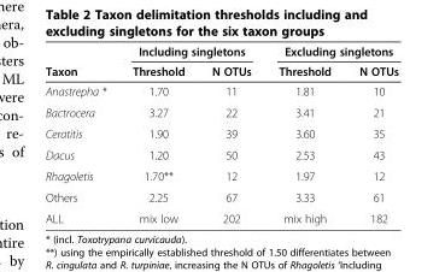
<table><thead><tr><td rowspan="2">Taxon</td><td colspan="2">Including singletons</td><td colspan="2">Excluding singletons</td></tr><tr><td>Threshold</td><td>N OTUs</td><td>Threshold</td><td>N OTUs</td></tr></thead><tbody><tr><td>Anastrepha *</td><td>1.70</td><td>11</td><td>1.81</td><td>10</td></tr><tr><td>Bactrocera</td><td>3.27</td><td>22</td><td>3.41</td><td>21</td></tr><tr><td>Ceratitis</td><td>1.90</td><td>39</td><td>3.60</td><td>35</td></tr><tr><td>Dacus</td><td>1.20</td><td>50</td><td>2.53</td><td>43</td></tr><tr><td>Rhagoletis</td><td>1.70**</td><td>12</td><td>1.97</td><td>12</td></tr><tr><td>Others</td><td>2.25</td><td>67</td><td>3.33</td><td>61</td></tr><tr><td>ALL</td><td>mix low</td><td>202</td><td>mix high</td><td>182</td></tr></tbody></table>